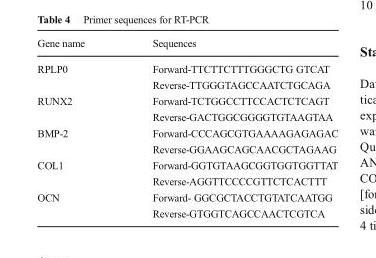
<table><thead><tr><td>Gene name</td><td>Sequences</td></tr></thead><tbody><tr><td rowspan="2">RPLP0</td><td>Forward-TTCTTCTTTGGGCTG GTCAT</td></tr><tr><td>Reverse-TTGGGTAGCCAATCTGCAGA</td></tr><tr><td rowspan="2">RUNX2</td><td>Forward-TCTGGCCTTCCACTCTCAGT</td></tr><tr><td>Reverse-GACTGGCGGGGTGTAAGTAA</td></tr><tr><td rowspan="2">BMP-2</td><td>Forward-CCCAGCGTGAAAAGAGAGAC</td></tr><tr><td>Reverse-GGAAGCAGCAACGCTAGAAG</td></tr><tr><td rowspan="2">COL1</td><td>Forward-GGTGTAAGCGGTGGTGGTTAT</td></tr><tr><td>Reverse-AGGTTCCCCGTTCTCACTTT</td></tr><tr><td rowspan="2">OCN</td><td>Forward- GGCGCTACCTGTATCAATGG</td></tr><tr><td>Reverse-GTGGTCAGCCAACTCGTCA</td></tr></tbody></table>